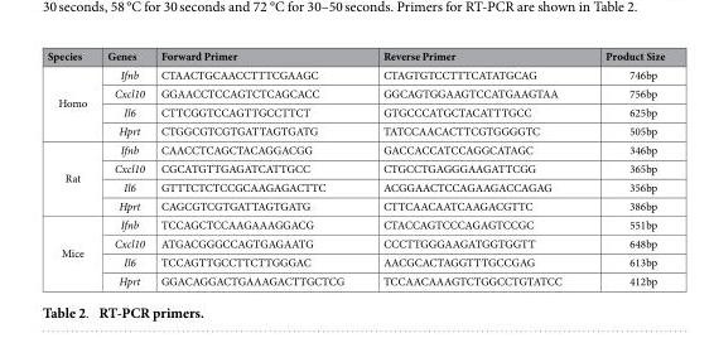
<table><thead><tr><td>Species</td><td>Genes</td><td>Forward Primer</td><td>Reverse Primer</td><td>Product Size</td></tr></thead><tbody><tr><td rowspan="4">Homo</td><td>Ifnb</td><td>CTAACTGCAACCTTTCGAAGC</td><td>CTAGTGTCCTTTCATATGCAG</td><td>746bp</td></tr><tr><td>Cxcl10</td><td>GGAACCTCCAGTCTCAGCACC</td><td>GGCAGTGGAAGTCCATGAAGTAA</td><td>756bp</td></tr><tr><td>Il6</td><td>CTTCGGTCCAGTTGCCTTCT</td><td>GTGCCCATGCTACATTTGCC</td><td>625bp</td></tr><tr><td>Hprt</td><td>CTGGCGTCGTGATTAGTGATG</td><td>TATCCAACACTTCGTGGGGTC</td><td>505bp</td></tr><tr><td rowspan="4">Rat</td><td>Ifnb</td><td>CAACCTCAGCTACAGGACGG</td><td>GACCACCATCCAGGCATAGC</td><td>346bp</td></tr><tr><td>Cxcl10</td><td>CGCATGTTGAGATCATTGCC</td><td>CTGCCTGAGGGAAGATTCGG</td><td>365bp</td></tr><tr><td>Il6</td><td>GTTTCTCTCCGCAAGAGACTTC</td><td>ACGGAACTCCAGAAGACCAGAG</td><td>356bp</td></tr><tr><td>Hprt</td><td>CAGCGTCGTGATTAGTGATG</td><td>CTTCAACAATCAAGACGTTC</td><td>386bp</td></tr><tr><td rowspan="4">Mice</td><td>Ifnb</td><td>TCCAGCTCCAAGAAAGGACG</td><td>CTACCAGTCCCAGAGTCCGC</td><td>551bp</td></tr><tr><td>Cxcl10</td><td>ATGACGGGCCAGTGAGAATG</td><td>CCCTTGGGAAGATGGTGGTT</td><td>648bp</td></tr><tr><td>Il6</td><td>TCCAGTTGCCTTCTTGGGAC</td><td>AACGCACTAGGTTTGCCGAG</td><td>613bp</td></tr><tr><td>Hprt</td><td>GGACAGGACTGAAAGACTTGCTCG</td><td>TCCAACAAAGTCTGGCCTGTATCC</td><td>412bp</td></tr></tbody></table>